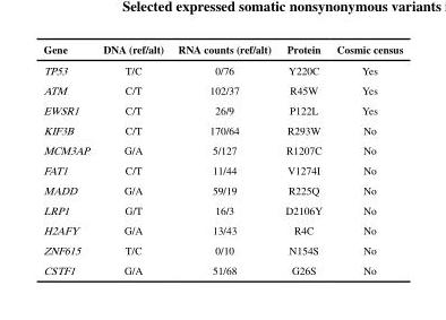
<table><thead><tr><td>Gene</td><td>DNA (ref/alt)</td><td>RNA counts (ref/alt)</td><td>Protein</td><td>Cosmic census</td></tr></thead><tbody><tr><td>TP53</td><td>T/C</td><td>0/76</td><td>Y220C</td><td>Yes</td></tr><tr><td>ATM</td><td>C/T</td><td>102/37</td><td>R45W</td><td>Yes</td></tr><tr><td>EWSR1</td><td>C/T</td><td>26/9</td><td>P122L</td><td>Yes</td></tr><tr><td>KIF3B</td><td>C/T</td><td>170/64</td><td>R293W</td><td>No</td></tr><tr><td>MCM3AP</td><td>G/A</td><td>5/127</td><td>R1207C</td><td>No</td></tr><tr><td>FAT1</td><td>C/T</td><td>11/44</td><td>V1274I</td><td>No</td></tr><tr><td>MADD</td><td>G/A</td><td>59/19</td><td>R225Q</td><td>No</td></tr><tr><td>LRP1</td><td>G/T</td><td>16/3</td><td>D2106Y</td><td>No</td></tr><tr><td>H2AFY</td><td>G/A</td><td>13/43</td><td>R4C</td><td>No</td></tr><tr><td>ZNF615</td><td>T/C</td><td>0/10</td><td>N154S</td><td>No</td></tr><tr><td>CSTF1</td><td>G/A</td><td>51/68</td><td>G26S</td><td>No</td></tr></tbody></table>